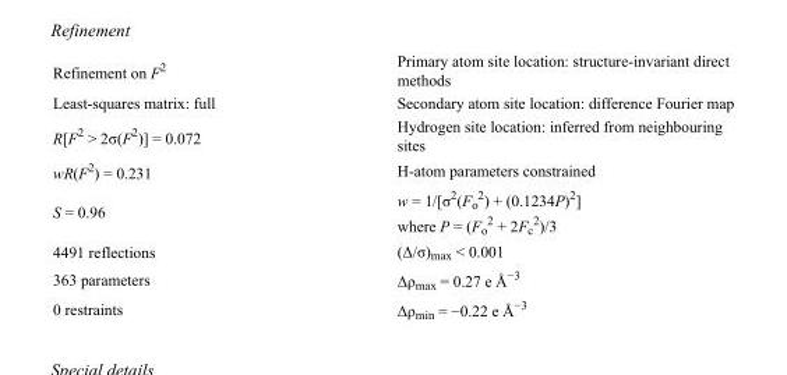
<table><tbody><tr><td>Refinement on F<sup>2</sup></td><td>Primary atom site location: structure-invariant direct methods</td></tr><tr><td>Least-squares matrix: full</td><td>Secondary atom site location: difference Fourier map</td></tr><tr><td>R[F<sup>2</sup> &gt; 2σ(F<sup>2</sup>)] = 0.072</td><td>Hydrogen site location: inferred from neighbouring sites</td></tr><tr><td>wR(F<sup>2</sup>) = 0.231</td><td>H-atom parameters constrained</td></tr><tr><td>S = 0.96</td><td>w = 1/[σ<sup>2</sup>(F<sub>o</sub> <sup>2</sup>) + (0.1234P)<sup>2</sup>] where P = (F<sub>o</sub> <sup>2</sup> + 2F<sub>c</sub> <sup>2</sup>)/3</td></tr><tr><td>4491 reflections</td><td>(Δ/σ)<sub>max</sub> &lt; 0.001</td></tr><tr><td>363 parameters</td><td>Δρ<sub>max</sub> = 0.27 e Å<sup>−3</sup></td></tr><tr><td>0 restraints</td><td>Δρ<sub>min</sub> = −0.22 e Å<sup>−3</sup></td></tr></tbody></table>